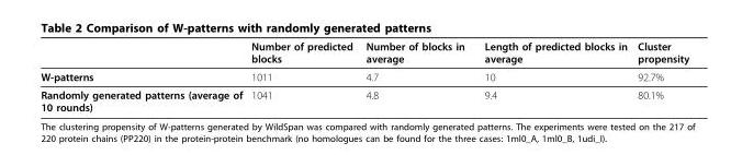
<table><thead><tr><td></td><td>Number of predicted blocks</td><td>Number of blocks in average</td><td>Length of predicted blocks in average</td><td>Cluster propensity</td></tr></thead><tbody><tr><td>W-patterns</td><td>1011</td><td>4.7</td><td>10</td><td>92.7%</td></tr><tr><td>Randomly generated patterns (average of 10 rounds)</td><td>1041</td><td>4.8</td><td>9.4</td><td>80.1%</td></tr></tbody></table>